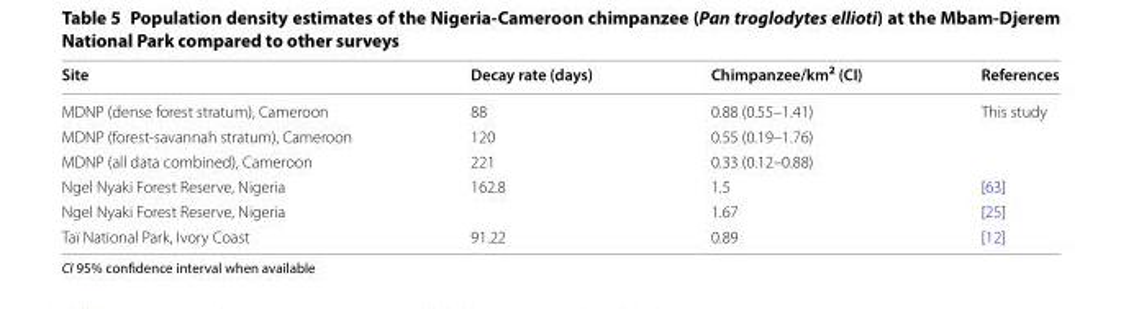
<table><thead><tr><td>Site</td><td>Decay rate (days)</td><td>Chimpanzee/km<sup>2</sup> (CI)</td><td>References</td></tr></thead><tbody><tr><td>MDNP (dense forest stratum), Cameroon</td><td>88</td><td>0.88 (0.55–1.41)</td><td rowspan="3">This study</td></tr><tr><td>MDNP (forest-savannah stratum), Cameroon</td><td>120</td><td>0.55 (0.19–1.76)</td></tr><tr><td>MDNP (all data combined), Cameroon</td><td>221</td><td>0.33 (0.12–0.88)</td></tr><tr><td>Ngel Nyaki Forest Reserve, Nigeria</td><td>162.8</td><td>1.5</td><td>[63]</td></tr><tr><td>Ngel Nyaki Forest Reserve, Nigeria</td><td></td><td>1.67</td><td>[25]</td></tr><tr><td>Taï National Park, Ivory Coast</td><td>91.22</td><td>0.89</td><td>[12]</td></tr></tbody></table>